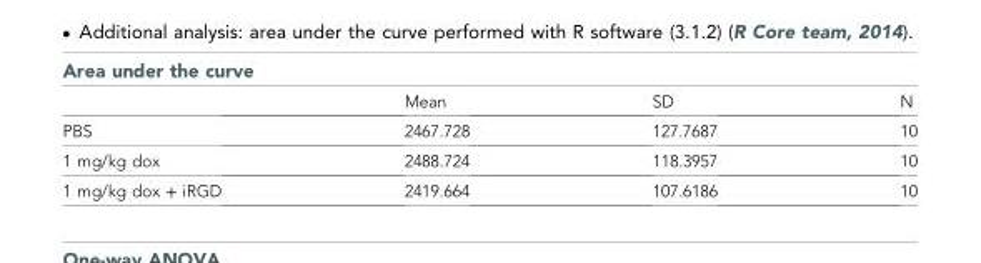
<table><thead><tr><td colspan="4">Area under the curve</td></tr><tr><td></td><td>Mean</td><td>SD</td><td>N</td></tr></thead><tbody><tr><td>PBS</td><td>2467.728</td><td>127.7687</td><td>10</td></tr><tr><td>1 mg/kg dox</td><td>2488.724</td><td>118.3957</td><td>10</td></tr><tr><td>1 mg/kg dox + iRGD</td><td>2419.664</td><td>107.6186</td><td>10</td></tr></tbody></table>